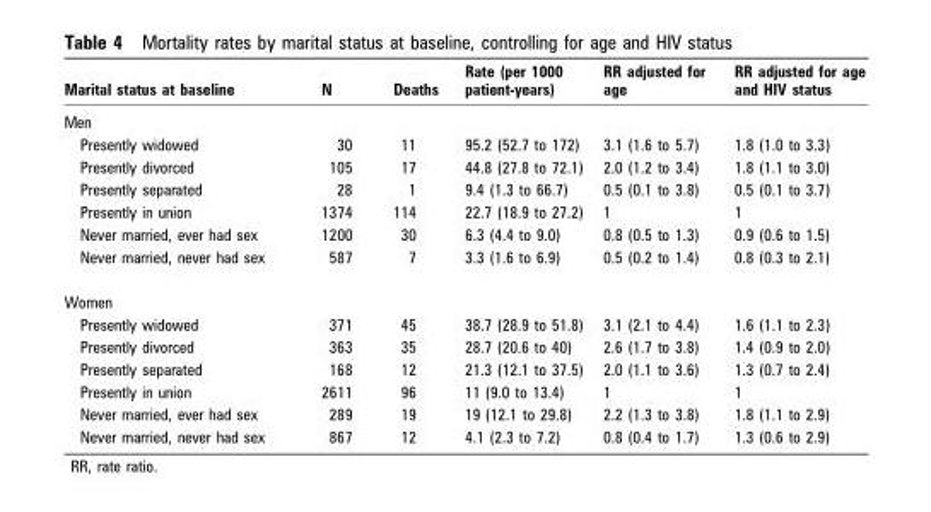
<table><thead><tr><td>Marital status at baseline</td><td>N</td><td>Deaths</td><td>Rate (per 1000 patient-years)</td><td>RR adjusted for age</td><td>RR adjusted for age and HIV status</td></tr></thead><tbody><tr><td colspan="6">Men</td></tr><tr><td>Presently widowed</td><td>30</td><td>11</td><td>95.2 (52.7 to 172)</td><td>3.1 (1.6 to 5.7)</td><td>1.8 (1.0 to 3.3)</td></tr><tr><td>Presently divorced</td><td>105</td><td>17</td><td>44.8 (27.8 to 72.1)</td><td>2.0 (1.2 to 3.4)</td><td>1.8 (1.1 to 3.0)</td></tr><tr><td>Presently separated</td><td>28</td><td>1</td><td>9.4 (1.3 to 66.7)</td><td>0.5 (0.1 to 3.8)</td><td>0.5 (0.1 to 3.7)</td></tr><tr><td>Presently in union</td><td>1374</td><td>114</td><td>22.7 (18.9 to 27.2)</td><td>1</td><td>1</td></tr><tr><td>Never married, ever had sex</td><td>1200</td><td>30</td><td>6.3 (4.4 to 9.0)</td><td>0.8 (0.5 to 1.3)</td><td>0.9 (0.6 to 1.5)</td></tr><tr><td>Never married, never had sex</td><td>587</td><td>7</td><td>3.3 (1.6 to 6.9)</td><td>0.5 (0.2 to 1.4)</td><td>0.8 (0.3 to 2.1)</td></tr><tr><td colspan="6">Women</td></tr><tr><td>Presently widowed</td><td>371</td><td>45</td><td>38.7 (28.9 to 51.8)</td><td>3.1 (2.1 to 4.4)</td><td>1.6 (1.1 to 2.3)</td></tr><tr><td>Presently divorced</td><td>363</td><td>35</td><td>28.7 (20.6 to 40)</td><td>2.6 (1.7 to 3.8)</td><td>1.4 (0.9 to 2.0)</td></tr><tr><td>Presently separated</td><td>168</td><td>12</td><td>21.3 (12.1 to 37.5)</td><td>2.0 (1.1 to 3.6)</td><td>1.3 (0.7 to 2.4)</td></tr><tr><td>Presently in union</td><td>2611</td><td>96</td><td>11 (9.0 to 13.4)</td><td>1</td><td>1</td></tr><tr><td>Never married, ever had sex</td><td>289</td><td>19</td><td>19 (12.1 to 29.8)</td><td>2.2 (1.3 to 3.8)</td><td>1.8 (1.1 to 2.9)</td></tr><tr><td>Never married, never had sex</td><td>867</td><td>12</td><td>4.1 (2.3 to 7.2)</td><td>0.8 (0.4 to 1.7)</td><td>1.3 (0.6 to 2.9)</td></tr></tbody></table>